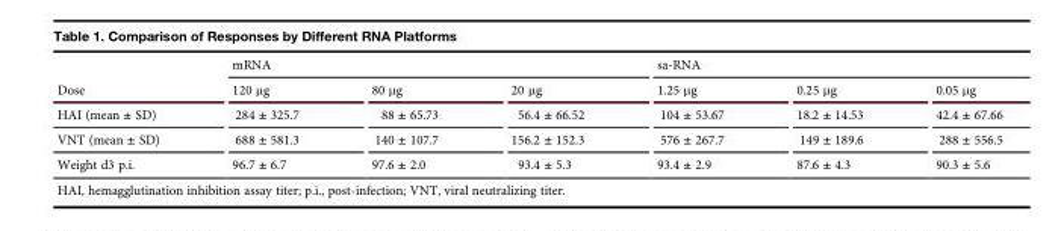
<table><thead><tr><td rowspan="2">Dose</td><td colspan="3">mRNA</td><td colspan="3">sa-RNA</td></tr><tr><td>120 μg</td><td>80 μg</td><td>20 μg</td><td>1.25 μg</td><td>0.25 μg</td><td>0.05 μg</td></tr></thead><tbody><tr><td>HAI (mean ± SD)</td><td>284 ± 325.7</td><td>88 ± 65.73</td><td>56.4 ± 66.52</td><td>104 ± 53.67</td><td>18.2 ± 14.53</td><td>42.4 ± 67.66</td></tr><tr><td>VNT (mean ± SD)</td><td>688 ± 581.3</td><td>140 ± 107.7</td><td>156.2 ± 152.3</td><td>576 ± 267.7</td><td>149 ± 189.6</td><td>288 ± 556.5</td></tr><tr><td>Weight d3 p.i.</td><td>96.7 ± 6.7</td><td>97.6 ± 2.0</td><td>93.4 ± 5.3</td><td>93.4 ± 2.9</td><td>87.6 ± 4.3</td><td>90.3 ± 5.6</td></tr></tbody></table>